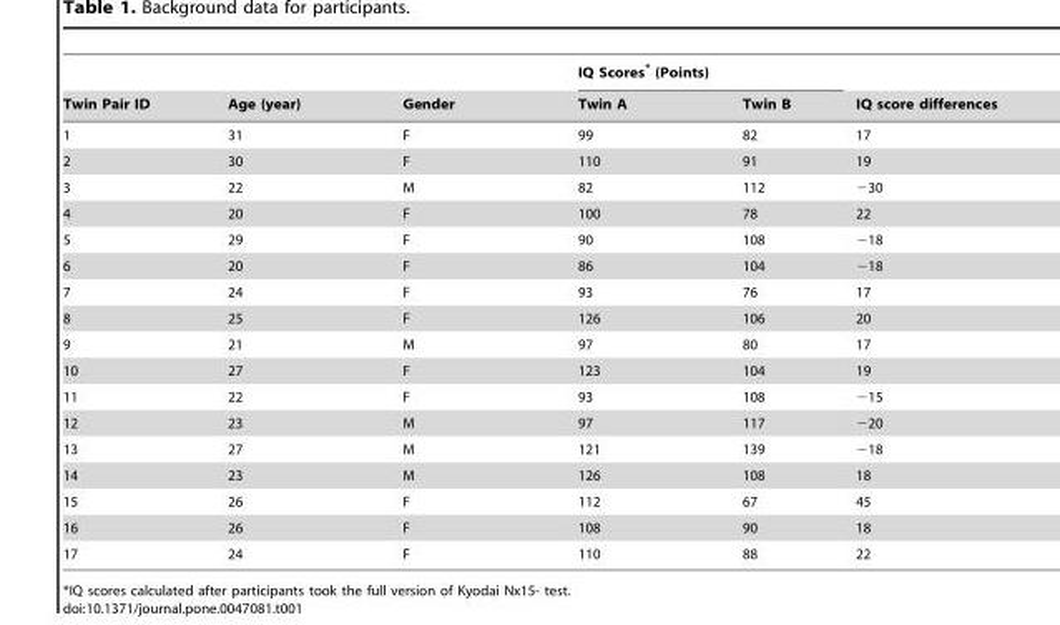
<table><thead><tr><td rowspan="2">Twin Pair ID</td><td rowspan="2">Age (year)</td><td rowspan="2">Gender</td><td colspan="2">IQ Scores* (Points)</td><td rowspan="2">IQ score differences</td></tr><tr><td>Twin A</td><td>Twin B</td></tr></thead><tbody><tr><td>1</td><td>31</td><td>F</td><td>99</td><td>82</td><td>17</td></tr><tr><td>2</td><td>30</td><td>F</td><td>110</td><td>91</td><td>19</td></tr><tr><td>3</td><td>22</td><td>M</td><td>82</td><td>112</td><td>−30</td></tr><tr><td>4</td><td>20</td><td>F</td><td>100</td><td>78</td><td>22</td></tr><tr><td>5</td><td>29</td><td>F</td><td>90</td><td>108</td><td>−18</td></tr><tr><td>6</td><td>20</td><td>F</td><td>86</td><td>104</td><td>−18</td></tr><tr><td>7</td><td>24</td><td>F</td><td>93</td><td>76</td><td>17</td></tr><tr><td>8</td><td>25</td><td>F</td><td>126</td><td>106</td><td>20</td></tr><tr><td>9</td><td>21</td><td>M</td><td>97</td><td>80</td><td>17</td></tr><tr><td>10</td><td>27</td><td>F</td><td>123</td><td>104</td><td>19</td></tr><tr><td>11</td><td>22</td><td>F</td><td>93</td><td>108</td><td>−15</td></tr><tr><td>12</td><td>23</td><td>M</td><td>97</td><td>117</td><td>−20</td></tr><tr><td>13</td><td>27</td><td>M</td><td>121</td><td>139</td><td>−18</td></tr><tr><td>14</td><td>23</td><td>M</td><td>126</td><td>108</td><td>18</td></tr><tr><td>15</td><td>26</td><td>F</td><td>112</td><td>67</td><td>45</td></tr><tr><td>16</td><td>26</td><td>F</td><td>108</td><td>90</td><td>18</td></tr><tr><td>17</td><td>24</td><td>F</td><td>110</td><td>88</td><td>22</td></tr></tbody></table>